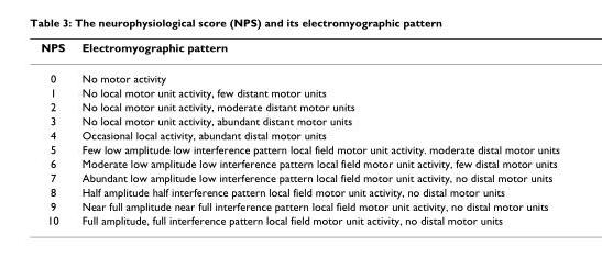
<table><thead><tr><td>NPS</td><td>Electromyographic pattern</td></tr></thead><tbody><tr><td>0</td><td>No motor activity</td></tr><tr><td>1</td><td>No local motor unit activity, few distant motor units</td></tr><tr><td>2</td><td>No local motor unit activity, moderate distant motor units</td></tr><tr><td>3</td><td>No local motor unit activity, abundant distant motor units</td></tr><tr><td>4</td><td>Occasional local activity, abundant distal motor units</td></tr><tr><td>5</td><td>Few low amplitude low interference pattern local field motor unit activity. moderate distal motor units</td></tr><tr><td>6</td><td>Moderate low amplitude low interference pattern local field motor unit activity, few distal motor units</td></tr><tr><td>7</td><td>Abundant low amplitude low interference pattern local field motor unit activity, no distal motor units</td></tr><tr><td>8</td><td>Half amplitude half interference pattern local field motor unit activity, no distal motor units</td></tr><tr><td>9</td><td>Near full amplitude near full interference pattern local field motor unit activity, no distal motor units</td></tr><tr><td>10</td><td>Full amplitude, full interference pattern local field motor unit activity, no distal motor units</td></tr></tbody></table>